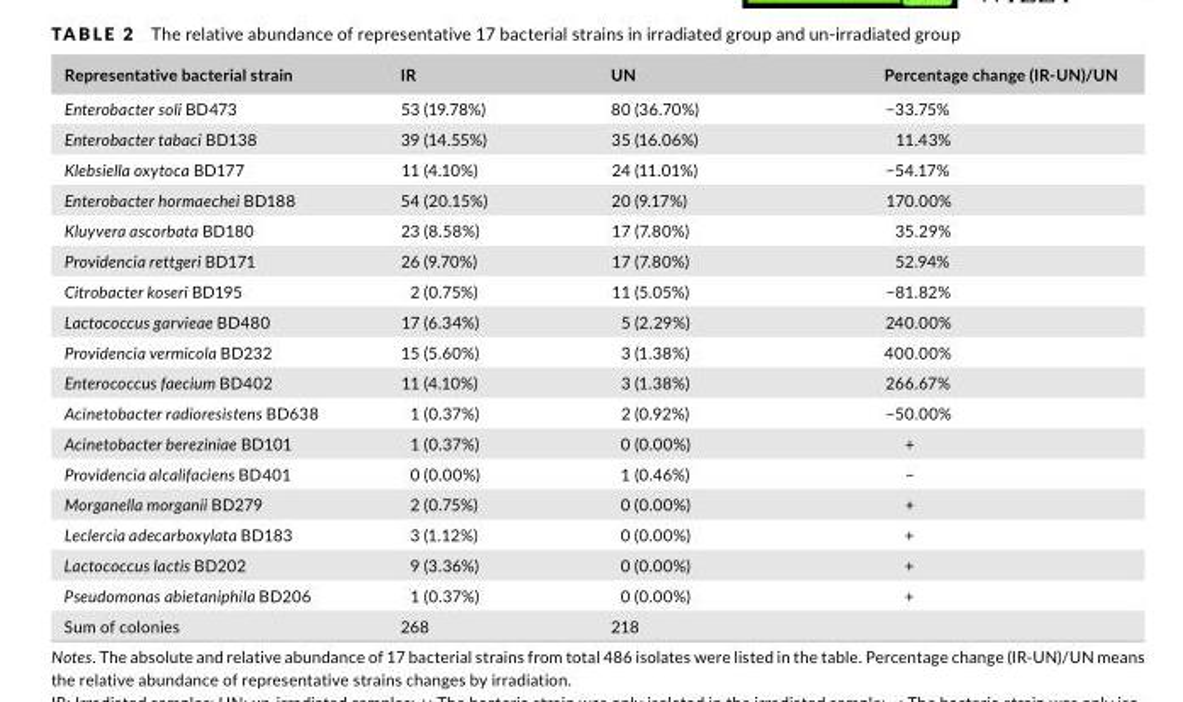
<table><thead><tr><td>Representative bacterial strain</td><td>IR</td><td>UN</td><td>Percentage change (IR- UN)/UN</td></tr></thead><tbody><tr><td>Enterobacter soli BD473</td><td>53 (19.78%)</td><td>80 (36.70%)</td><td>−33.75%</td></tr><tr><td>Enterobacter tabaci BD138</td><td>39 (14.55%)</td><td>35 (16.06%)</td><td>11.43%</td></tr><tr><td>Klebsiella oxytoca BD177</td><td>11 (4.10%)</td><td>24 (11.01%)</td><td>−54.17%</td></tr><tr><td>Enterobacter hormaechei BD188</td><td>54 (20.15%)</td><td>20 (9.17%)</td><td>170.00%</td></tr><tr><td>Kluyvera ascorbata BD180</td><td>23 (8.58%)</td><td>17 (7.80%)</td><td>35.29%</td></tr><tr><td>Providencia rettgeri BD171</td><td>26 (9.70%)</td><td>17 (7.80%)</td><td>52.94%</td></tr><tr><td>Citrobacter koseri BD195</td><td>2 (0.75%)</td><td>11 (5.05%)</td><td>−81.82%</td></tr><tr><td>Lactococcus garvieae BD480</td><td>17 (6.34%)</td><td>5 (2.29%)</td><td>240.00%</td></tr><tr><td>Providencia vermicola BD232</td><td>15 (5.60%)</td><td>3 (1.38%)</td><td>400.00%</td></tr><tr><td>Enterococcus faecium BD402</td><td>11 (4.10%)</td><td>3 (1.38%)</td><td>266.67%</td></tr><tr><td>Acinetobacter radioresistens BD638</td><td>1 (0.37%)</td><td>2 (0.92%)</td><td>−50.00%</td></tr><tr><td>Acinetobacter bereziniae BD101</td><td>1 (0.37%)</td><td>0 (0.00%)</td><td>+</td></tr><tr><td>Providencia alcalifaciens BD401</td><td>0 (0.00%)</td><td>1 (0.46%)</td><td>−</td></tr><tr><td>Morganella morganii BD279</td><td>2 (0.75%)</td><td>0 (0.00%)</td><td>+</td></tr><tr><td>Leclercia adecarboxylata BD183</td><td>3 (1.12%)</td><td>0 (0.00%)</td><td>+</td></tr><tr><td>Lactococcus lactis BD202</td><td>9 (3.36%)</td><td>0 (0.00%)</td><td>+</td></tr><tr><td>Pseudomonas abietaniphila BD206</td><td>1 (0.37%)</td><td>0 (0.00%)</td><td>+</td></tr><tr><td>Sum of colonies</td><td>268</td><td>218</td><td></td></tr></tbody></table>